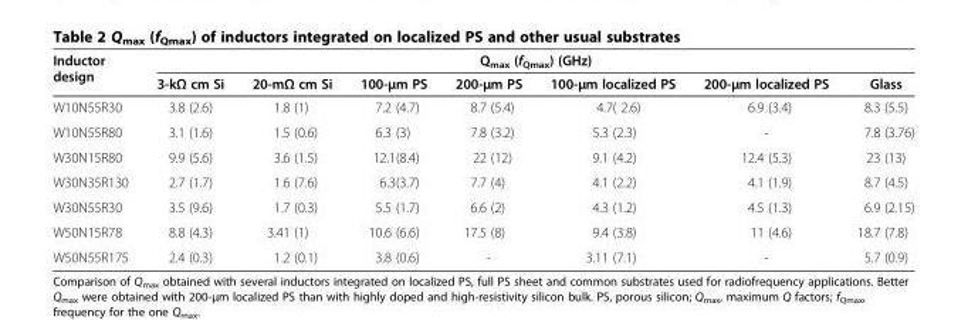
<table><thead><tr><td rowspan="2">Inductor design</td><td colspan="7">Q<sub>max</sub> (f<sub>Qmax</sub>) (GHz)</td></tr><tr><td>3-kΩ cm Si</td><td>20-mΩ cm Si</td><td>100-μm PS</td><td>200-μm PS</td><td>100-μm localized PS</td><td>200-μm localized PS</td><td>Glass</td></tr></thead><tbody><tr><td>W10N55R30</td><td>3.8 (2.6)</td><td>1.8 (1)</td><td>7.2 (4.7)</td><td>8.7 (5.4)</td><td>4.7( 2.6)</td><td>6.9 (3.4)</td><td>8.3 (5.5)</td></tr><tr><td>W10N55R80</td><td>3.1 (1.6)</td><td>1.5 (0.6)</td><td>6.3 (3)</td><td>7.8 (3.2)</td><td>5.3 (2.3)</td><td>-</td><td>7.8 (3.76)</td></tr><tr><td>W30N15R80</td><td>9.9 (5.6)</td><td>3.6 (1.5)</td><td>12.1(8.4)</td><td>22 (12)</td><td>9.1 (4.2)</td><td>12.4 (5.3)</td><td>23 (13)</td></tr><tr><td>W30N35R130</td><td>2.7 (1.7)</td><td>1.6 (7.6)</td><td>6.3(3.7)</td><td>7.7 (4)</td><td>4.1 (2.2)</td><td>4.1 (1.9)</td><td>8.7 (4.5)</td></tr><tr><td>W30N55R30</td><td>3.5 (9.6)</td><td>1.7 (0.3)</td><td>5.5 (1.7)</td><td>6.6 (2)</td><td>4.3 (1.2)</td><td>4.5 (1.3)</td><td>6.9 (2.15)</td></tr><tr><td>W50N15R78</td><td>8.8 (4.3)</td><td>3.41 (1)</td><td>10.6 (6.6)</td><td>17.5 (8)</td><td>9.4 (3.8)</td><td>11 (4.6)</td><td>18.7 (7.8)</td></tr><tr><td>W50N55R175</td><td>2.4 (0.3)</td><td>1.2 (0.1)</td><td>3.8 (0.6)</td><td>-</td><td>3.11 (7.1)</td><td>-</td><td>5.7 (0.9)</td></tr></tbody></table>